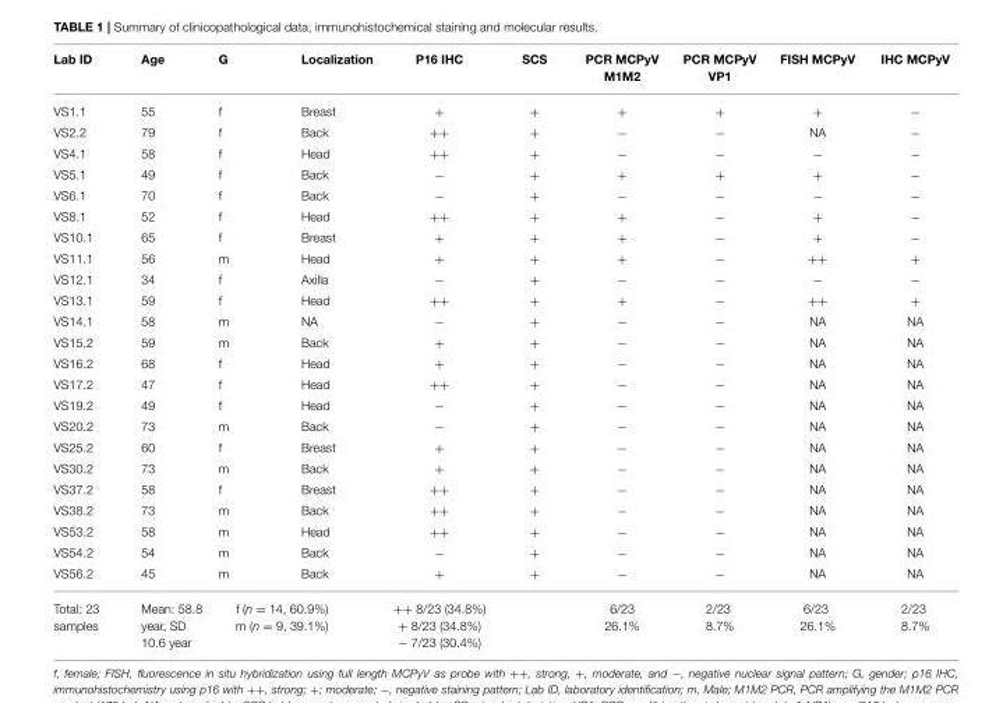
<table><thead><tr><td>Lab ID</td><td>Age</td><td>G</td><td>Localization</td><td>P16 IHC</td><td>SCS</td><td>PCR MCPyV M1M2</td><td>PCR MCPyV VP1</td><td>FISH MCPyV</td><td>IHC MCPyV</td></tr></thead><tbody><tr><td>VS1.1</td><td>55</td><td>f</td><td>Breast</td><td>+</td><td>+</td><td>+</td><td>+</td><td>+</td><td>−</td></tr><tr><td>VS2.2</td><td>79</td><td>f</td><td>Back</td><td>++</td><td>+</td><td>−</td><td>−</td><td>NA</td><td>−</td></tr><tr><td>VS4.1</td><td>58</td><td>f</td><td>Head</td><td>++</td><td>+</td><td>−</td><td>−</td><td>−</td><td>−</td></tr><tr><td>VS5.1</td><td>49</td><td>f</td><td>Back</td><td>−</td><td>+</td><td>+</td><td>+</td><td>+</td><td>−</td></tr><tr><td>VS6.1</td><td>70</td><td>f</td><td>Back</td><td>−</td><td>+</td><td>−</td><td>−</td><td>−</td><td>−</td></tr><tr><td>VS8.1</td><td>52</td><td>f</td><td>Head</td><td>++</td><td>+</td><td>+</td><td>−</td><td>+</td><td>−</td></tr><tr><td>VS10.1</td><td>65</td><td>f</td><td>Breast</td><td>+</td><td>+</td><td>+</td><td>−</td><td>+</td><td>−</td></tr><tr><td>VS11.1</td><td>56</td><td>m</td><td>Head</td><td>+</td><td>+</td><td>+</td><td>−</td><td>++</td><td>+</td></tr><tr><td>VS12.1</td><td>34</td><td>f</td><td>Axilla</td><td>−</td><td>+</td><td>−</td><td>−</td><td>−</td><td>−</td></tr><tr><td>VS13.1</td><td>59</td><td>f</td><td>Head</td><td>++</td><td>+</td><td>+</td><td>−</td><td>++</td><td>+</td></tr><tr><td>VS14.1</td><td>58</td><td>m</td><td>NA</td><td>−</td><td>+</td><td>−</td><td>−</td><td>NA</td><td>NA</td></tr><tr><td>VS15.2</td><td>59</td><td>m</td><td>Back</td><td>+</td><td>+</td><td>−</td><td>−</td><td>NA</td><td>NA</td></tr><tr><td>VS16.2</td><td>68</td><td>f</td><td>Head</td><td>+</td><td>+</td><td>−</td><td>−</td><td>NA</td><td>NA</td></tr><tr><td>VS17.2</td><td>47</td><td>f</td><td>Head</td><td>++</td><td>+</td><td>−</td><td>−</td><td>NA</td><td>NA</td></tr><tr><td>VS19.2</td><td>49</td><td>f</td><td>Head</td><td>−</td><td>+</td><td>−</td><td>−</td><td>NA</td><td>NA</td></tr><tr><td>VS20.2</td><td>73</td><td>m</td><td>Back</td><td>−</td><td>+</td><td>−</td><td>−</td><td>NA</td><td>NA</td></tr><tr><td>VS25.2</td><td>60</td><td>f</td><td>Breast</td><td>+</td><td>+</td><td>−</td><td>−</td><td>NA</td><td>NA</td></tr><tr><td>VS30.2</td><td>73</td><td>m</td><td>Back</td><td>+</td><td>+</td><td>−</td><td>−</td><td>NA</td><td>NA</td></tr><tr><td>VS37.2</td><td>58</td><td>f</td><td>Breast</td><td>++</td><td>+</td><td>−</td><td>−</td><td>NA</td><td>NA</td></tr><tr><td>VS38.2</td><td>73</td><td>m</td><td>Back</td><td>++</td><td>+</td><td>−</td><td>−</td><td>NA</td><td>NA</td></tr><tr><td>VS53.2</td><td>58</td><td>m</td><td>Head</td><td>++</td><td>+</td><td>−</td><td>−</td><td>NA</td><td>NA</td></tr><tr><td>VS54.2</td><td>54</td><td>m</td><td>Back</td><td>−</td><td>+</td><td>−</td><td>−</td><td>NA</td><td>NA</td></tr><tr><td>VS56.2</td><td>45</td><td>m</td><td>Back</td><td>+</td><td>+</td><td>−</td><td>−</td><td>NA</td><td>NA</td></tr><tr><td>Total: 23 samples</td><td>Mean: 58.8 year, SD 10.6 year</td><td colspan="2">f (n = 14, 60.9%) m (n = 9, 39.1%)</td><td>++ 8/23 (34.8%) + 8/23 (34.8%) − 7/23 (30.4%)</td><td></td><td>6/23 26.1%</td><td>2/23 8.7%</td><td>6/23 26.1%</td><td>2/23 8.7%</td></tr></tbody></table>